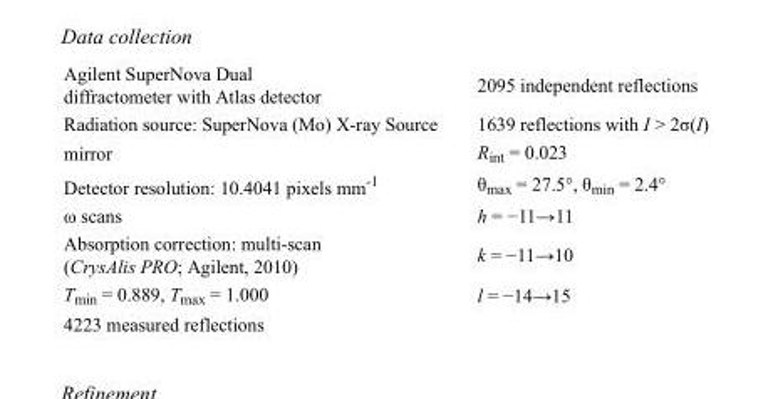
<table><tbody><tr><td>Agilent SuperNova Dual diffractometer with Atlas detector</td><td>2095 independent reflections</td></tr><tr><td>Radiation source: SuperNova (Mo) X-ray Source</td><td>1639 reflections with I &gt; 2σ(I)</td></tr><tr><td>mirror</td><td>R<sub>int</sub> = 0.023</td></tr><tr><td>Detector resolution: 10.4041 pixels mm<sup>-1</sup></td><td>θ<sub>max</sub> = 27.5°, θ<sub>min</sub> = 2.4°</td></tr><tr><td>ω scans</td><td>h = −11→11</td></tr><tr><td>Absorption correction: multi-scan (CrysAlis PRO; Agilent, 2010)</td><td>k = −11→10</td></tr><tr><td>T<sub>min</sub> = 0.889, T<sub>max</sub> = 1.000</td><td>l = −14→15</td></tr><tr><td>4223 measured reflections</td><td></td></tr></tbody></table>